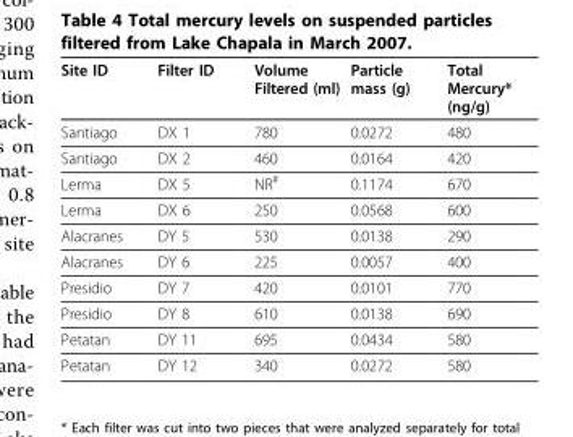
<table><thead><tr><td>Site ID</td><td>Filter ID</td><td>Volume Filtered (ml)</td><td>Particle mass (g)</td><td>Total Mercury* (ng/g)</td></tr></thead><tbody><tr><td>Santiago</td><td>DX 1</td><td>780</td><td>0.0272</td><td>480</td></tr><tr><td>Santiago</td><td>DX 2</td><td>460</td><td>0.0164</td><td>420</td></tr><tr><td>Lerma</td><td>DX 5</td><td>NR<sup>#</sup></td><td>0.1174</td><td>670</td></tr><tr><td>Lerma</td><td>DX 6</td><td>250</td><td>0.0568</td><td>600</td></tr><tr><td>Alacranes</td><td>DY 5</td><td>530</td><td>0.0138</td><td>290</td></tr><tr><td>Alacranes</td><td>DY 6</td><td>225</td><td>0.0057</td><td>400</td></tr><tr><td>Presidio</td><td>DY 7</td><td>420</td><td>0.0101</td><td>770</td></tr><tr><td>Presidio</td><td>DY 8</td><td>610</td><td>0.0138</td><td>690</td></tr><tr><td>Petatan</td><td>DY 11</td><td>695</td><td>0.0434</td><td>580</td></tr><tr><td>Petatan</td><td>DY 12</td><td>340</td><td>0.0272</td><td>580</td></tr></tbody></table>